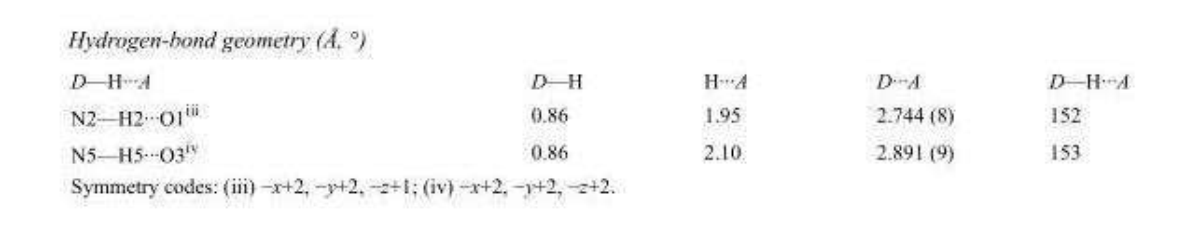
<table><tbody><tr><td>D—H···A</td><td>D—H</td><td>H···A</td><td>D···A</td><td>D—H···A</td></tr><tr><td>N2—H2···O1<sup>iii</sup></td><td>0.86</td><td>1.95</td><td>2.744 (8)</td><td>152</td></tr><tr><td>N5—H5···O3<sup>iv</sup></td><td>0.86</td><td>2.10</td><td>2.891 (9)</td><td>153</td></tr></tbody></table>